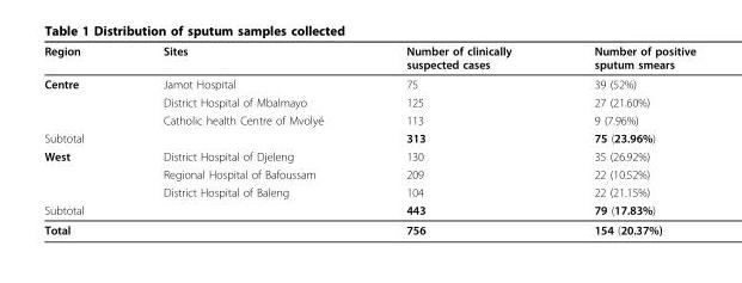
<table><thead><tr><td>Region</td><td>Sites</td><td>Number of clinically suspected cases</td><td>Number of positive sputum smears</td></tr></thead><tbody><tr><td rowspan="3">Centre</td><td>Jamot Hospital</td><td>75</td><td>39 (52%)</td></tr><tr><td>District Hospital of Mbalmayo</td><td>125</td><td>27 (21.60%)</td></tr><tr><td>Catholic health Centre of Mvolyé</td><td>113</td><td>9 (7.96%)</td></tr><tr><td colspan="2">Subtotal</td><td>313</td><td>75 (23.96%)</td></tr><tr><td rowspan="3">West</td><td>District Hospital of Djeleng</td><td>130</td><td>35 (26.92%)</td></tr><tr><td>Regional Hospital of Bafoussam</td><td>209</td><td>22 (10.52%)</td></tr><tr><td>District Hospital of Baleng</td><td>104</td><td>22 (21.15%)</td></tr><tr><td colspan="2">Subtotal</td><td>443</td><td>79 (17.83%)</td></tr><tr><td colspan="2">Total</td><td>756</td><td>154 (20.37%)</td></tr></tbody></table>